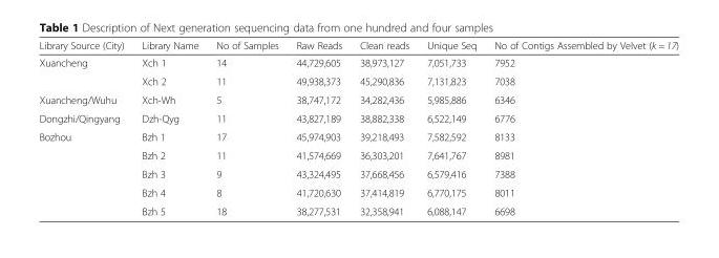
<table><thead><tr><td>Library Source (City)</td><td>Library Name</td><td>No of Samples</td><td>Raw Reads</td><td>Clean reads</td><td>Unique Seq</td><td>No of Contigs Assembled by Velvet (k = 17)</td></tr></thead><tbody><tr><td rowspan="2">Xuancheng</td><td>Xch 1</td><td>14</td><td>44,729,605</td><td>38,973,127</td><td>7,051,733</td><td>7952</td></tr><tr><td>Xch 2</td><td>11</td><td>49,938,373</td><td>45,290,836</td><td>7,131,823</td><td>7038</td></tr><tr><td>Xuancheng/Wuhu</td><td>Xch-Wh</td><td>5</td><td>38,747,172</td><td>34,282,436</td><td>5,985,886</td><td>6346</td></tr><tr><td>Dongzhi/Qingyang</td><td>Dzh-Qyg</td><td>11</td><td>43,827,189</td><td>38,882,338</td><td>6,522,149</td><td>6776</td></tr><tr><td rowspan="5">Bozhou</td><td>Bzh 1</td><td>17</td><td>45,974,903</td><td>39,218,493</td><td>7,582,592</td><td>8133</td></tr><tr><td>Bzh 2</td><td>11</td><td>41,574,669</td><td>36,303,201</td><td>7,641,767</td><td>8981</td></tr><tr><td>Bzh 3</td><td>9</td><td>43,324,495</td><td>37,668,456</td><td>6,579,416</td><td>7388</td></tr><tr><td>Bzh 4</td><td>8</td><td>41,720,630</td><td>37,414,819</td><td>6,770,175</td><td>8011</td></tr><tr><td>Bzh 5</td><td>18</td><td>38,277,531</td><td>32,358,941</td><td>6,088,147</td><td>6698</td></tr></tbody></table>